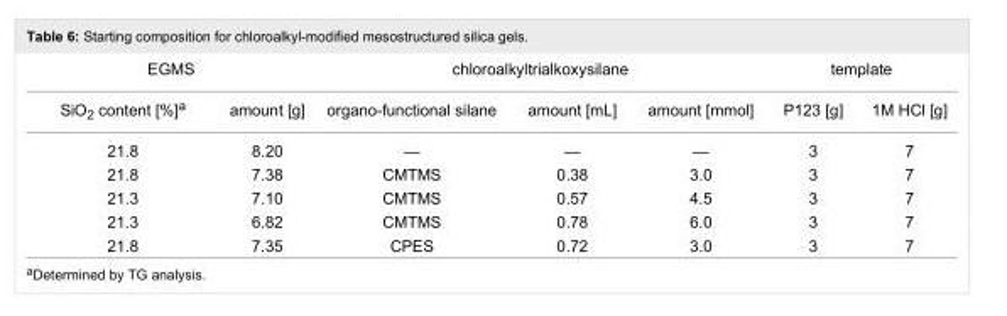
<table><tbody><tr><td colspan="2">EGMS</td><td colspan="3">chloroalkyltrialkoxysilane</td><td colspan="2">template</td></tr><tr><td>SiO<sub>2</sub> content [%]<sup>a</sup></td><td>amount [g]</td><td>organo-functional silane</td><td>amount [mL]</td><td>amount [mmol]</td><td>P123 [g]</td><td>1M HCl [g]</td></tr><tr><td>21.8</td><td>8.20</td><td>—</td><td>—</td><td>—</td><td>3</td><td>7</td></tr><tr><td>21.8</td><td>7.38</td><td>CMTMS</td><td>0.38</td><td>3.0</td><td>3</td><td>7</td></tr><tr><td>21.3</td><td>7.10</td><td>CMTMS</td><td>0.57</td><td>4.5</td><td>3</td><td>7</td></tr><tr><td>21.3</td><td>6.82</td><td>CMTMS</td><td>0.78</td><td>6.0</td><td>3</td><td>7</td></tr><tr><td>21.8</td><td>7.35</td><td>CPES</td><td>0.72</td><td>3.0</td><td>3</td><td>7</td></tr></tbody></table>